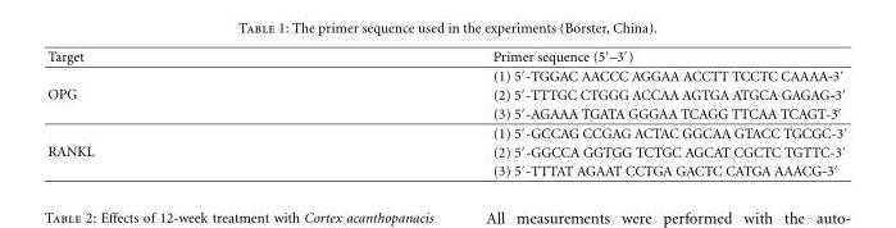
<table><thead><tr><td>Target</td><td>Primer sequence (5′–3′)</td></tr></thead><tbody><tr><td rowspan="3">OPG</td><td>(1) 5′-TGGAC AACCC AGGAA ACCTT TCCTC CAAAA-3′</td></tr><tr><td>(2) 5′-TTTGC CTGGG ACCAA AGTGA ATGCA GAGAG-3′</td></tr><tr><td>(3) 5′-AGAAA TGATA GGGAA TCAGG TTCAA TCAGT-3′</td></tr><tr><td rowspan="3">RANKL</td><td>(1) 5′-GCCAG CCGAG ACTAC GGCAA GTACC TGCGC-3′</td></tr><tr><td>(2) 5′-GGCCA GGTGG TCTGC AGCAT CGCTC TGTTC-3′</td></tr><tr><td>(3) 5′-TTTAT AGAAT CCTGA GACTC CATGA AAACG-3′</td></tr></tbody></table>